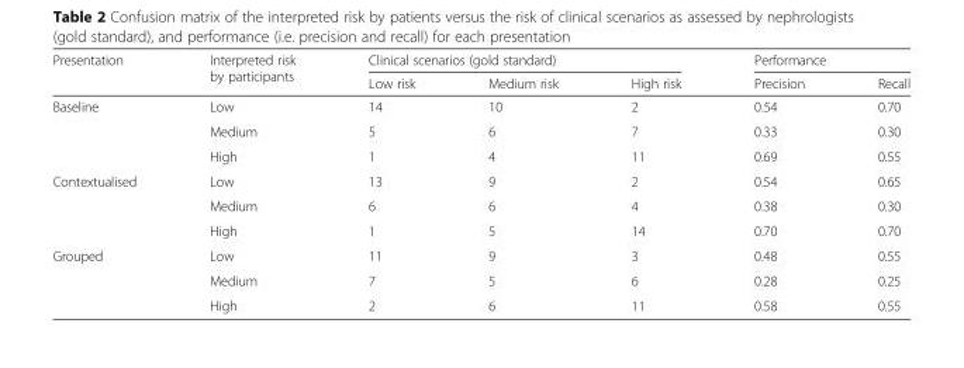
<table><thead><tr><td rowspan="2">Presentation</td><td rowspan="2">Interpreted risk by participants</td><td colspan="3">Clinical scenarios (gold standard)</td><td colspan="2">Performance</td></tr><tr><td>Low risk</td><td>Medium risk</td><td>High risk</td><td>Precision</td><td>Recall</td></tr></thead><tbody><tr><td rowspan="3">Baseline</td><td>Low</td><td>14</td><td>10</td><td>2</td><td>0.54</td><td>0.70</td></tr><tr><td>Medium</td><td>5</td><td>6</td><td>7</td><td>0.33</td><td>0.30</td></tr><tr><td>High</td><td>1</td><td>4</td><td>11</td><td>0.69</td><td>0.55</td></tr><tr><td rowspan="3">Contextualised</td><td>Low</td><td>13</td><td>9</td><td>2</td><td>0.54</td><td>0.65</td></tr><tr><td>Medium</td><td>6</td><td>6</td><td>4</td><td>0.38</td><td>0.30</td></tr><tr><td>High</td><td>1</td><td>5</td><td>14</td><td>0.70</td><td>0.70</td></tr><tr><td rowspan="3">Grouped</td><td>Low</td><td>11</td><td>9</td><td>3</td><td>0.48</td><td>0.55</td></tr><tr><td>Medium</td><td>7</td><td>5</td><td>6</td><td>0.28</td><td>0.25</td></tr><tr><td>High</td><td>2</td><td>6</td><td>11</td><td>0.58</td><td>0.55</td></tr></tbody></table>